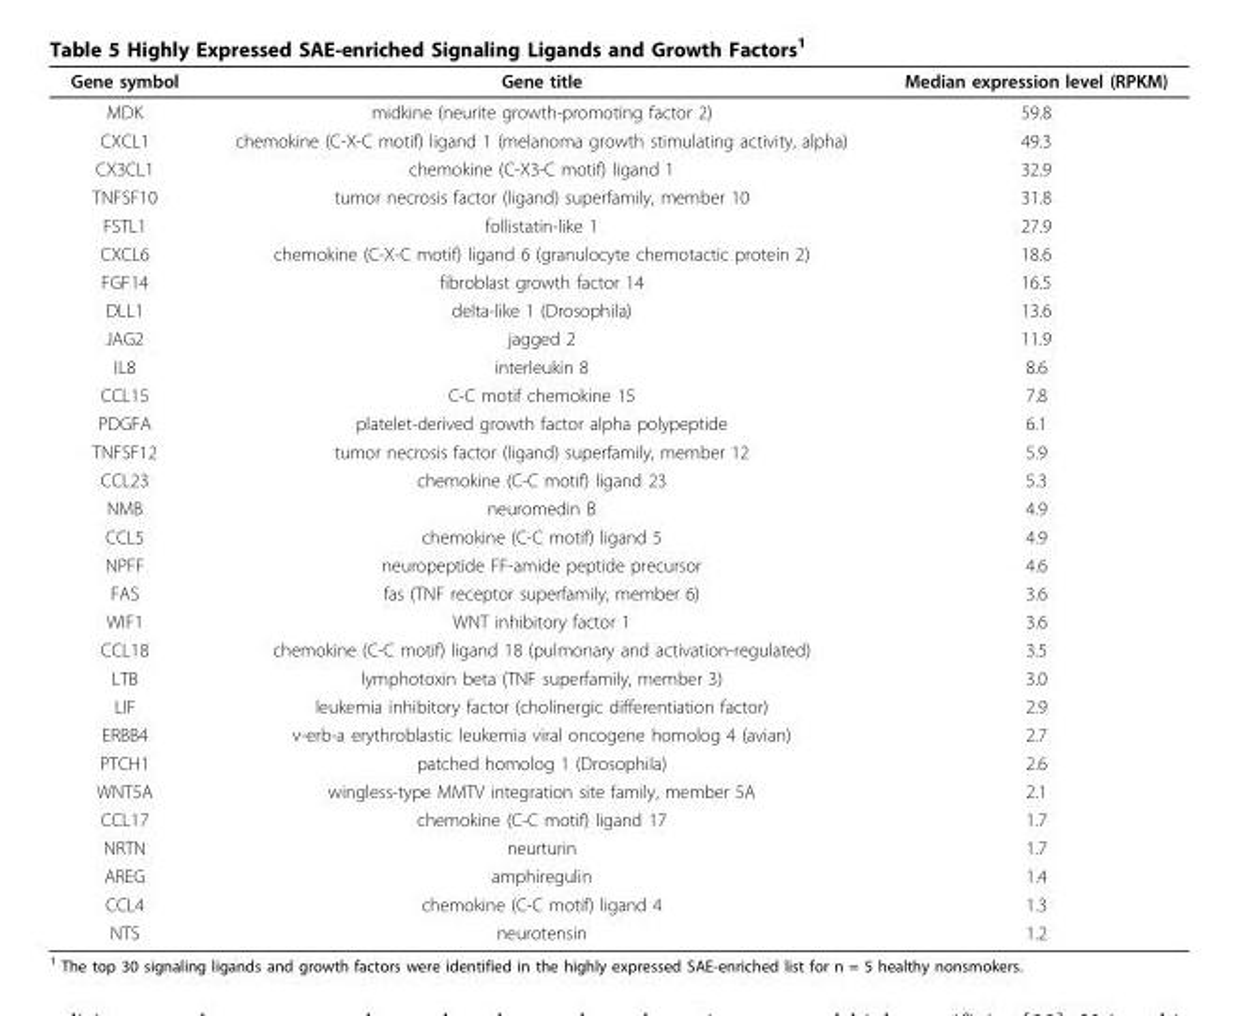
<table><thead><tr><td>Gene symbol</td><td>Gene title</td><td>Median expression level (RPKM)</td></tr></thead><tbody><tr><td>MDK</td><td>midkine (neurite growth-promoting factor 2)</td><td>59.8</td></tr><tr><td>CXCL1</td><td>chemokine (C-X-C motif) ligand 1 (melanoma growth stimulating activity, alpha)</td><td>49.3</td></tr><tr><td>CX3CL1</td><td>chemokine (C-X3-C motif) ligand 1</td><td>32.9</td></tr><tr><td>TNFSF10</td><td>tumor necrosis factor (ligand) superfamily, member 10</td><td>31.8</td></tr><tr><td>FSTL1</td><td>follistatin-like 1</td><td>27.9</td></tr><tr><td>CXCL6</td><td>chemokine (C-X-C motif) ligand 6 (granulocyte chemotactic protein 2)</td><td>18.6</td></tr><tr><td>FGF14</td><td>fibroblast growth factor 14</td><td>16.5</td></tr><tr><td>DLL1</td><td>delta-like 1 (Drosophila)</td><td>13.6</td></tr><tr><td>JAG2</td><td>jagged 2</td><td>11.9</td></tr><tr><td>IL8</td><td>interleukin 8</td><td>8.6</td></tr><tr><td>CCL15</td><td>C-C motif chemokine 15</td><td>7.8</td></tr><tr><td>PDGFA</td><td>platelet-derived growth factor alpha polypeptide</td><td>6.1</td></tr><tr><td>TNFSF12</td><td>tumor necrosis factor (ligand) superfamily, member 12</td><td>5.9</td></tr><tr><td>CCL23</td><td>chemokine (C-C motif) ligand 23</td><td>5.3</td></tr><tr><td>NMB</td><td>neuromedin B</td><td>4.9</td></tr><tr><td>CCL5</td><td>chemokine (C-C motif) ligand 5</td><td>4.9</td></tr><tr><td>NPFF</td><td>neuropeptide FF-amide peptide precursor</td><td>4.6</td></tr><tr><td>FAS</td><td>fas (TNF receptor superfamily, member 6)</td><td>3.6</td></tr><tr><td>WIF1</td><td>WNT inhibitory factor 1</td><td>3.6</td></tr><tr><td>CCL18</td><td>chemokine (C-C motif) ligand 18 (pulmonary and activation-regulated)</td><td>3.5</td></tr><tr><td>LTB</td><td>lymphotoxin beta (TNF superfamily, member 3)</td><td>3.0</td></tr><tr><td>LIF</td><td>leukemia inhibitory factor (cholinergic differentiation factor)</td><td>2.9</td></tr><tr><td>ERBB4</td><td>v-erb-a erythroblastic leukemia viral oncogene homolog 4 (avian)</td><td>2.7</td></tr><tr><td>PTCH1</td><td>patched homolog 1 (Drosophila)</td><td>2.6</td></tr><tr><td>WNT5A</td><td>wingless-type MMTV integration site family, member 5A</td><td>2.1</td></tr><tr><td>CCL17</td><td>chemokine (C-C motif) ligand 17</td><td>1.7</td></tr><tr><td>NRTN</td><td>neurturin</td><td>1.7</td></tr><tr><td>AREG</td><td>amphiregulin</td><td>1.4</td></tr><tr><td>CCL4</td><td>chemokine (C-C motif) ligand 4</td><td>1.3</td></tr><tr><td>NTS</td><td>neurotensin</td><td>1.2</td></tr></tbody></table>